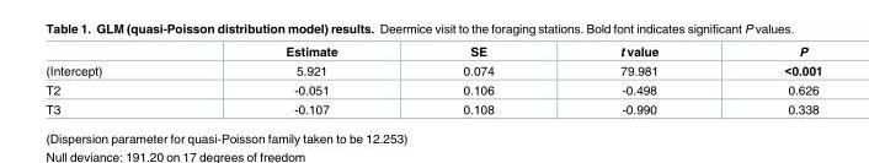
<table><thead><tr><td></td><td>Estimate</td><td>SE</td><td>t value</td><td>P</td></tr></thead><tbody><tr><td>(Intercept)</td><td>5.921</td><td>0.074</td><td>79.981</td><td>&lt;0.001</td></tr><tr><td>T2</td><td>-0.051</td><td>0.106</td><td>-0.498</td><td>0.626</td></tr><tr><td>T3</td><td>-0.107</td><td>0.108</td><td>-0.990</td><td>0.338</td></tr></tbody></table>